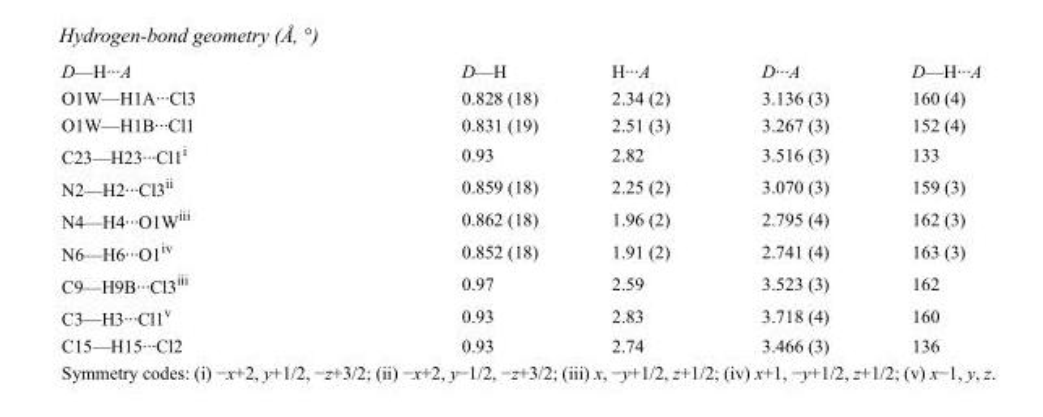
<table><tbody><tr><td>D—H···A</td><td>D—H</td><td>H···A</td><td>D···A</td><td>D—H···A</td></tr><tr><td>O1W—H1A···Cl3</td><td>0.828 (18)</td><td>2.34 (2)</td><td>3.136 (3)</td><td>160 (4)</td></tr><tr><td>O1W—H1B···Cl1</td><td>0.831 (19)</td><td>2.51 (3)</td><td>3.267 (3)</td><td>152 (4)</td></tr><tr><td>C23—H23···Cl1<sup>i</sup></td><td>0.93</td><td>2.82</td><td>3.516 (3)</td><td>133</td></tr><tr><td>N2—H2···Cl3<sup>ii</sup></td><td>0.859 (18)</td><td>2.25 (2)</td><td>3.070 (3)</td><td>159 (3)</td></tr><tr><td>N4—H4···O1W<sup>iii</sup></td><td>0.862 (18)</td><td>1.96 (2)</td><td>2.795 (4)</td><td>162 (3)</td></tr><tr><td>N6—H6···O1<sup>iv</sup></td><td>0.852 (18)</td><td>1.91 (2)</td><td>2.741 (4)</td><td>163 (3)</td></tr><tr><td>C9—H9B···Cl3<sup>iii</sup></td><td>0.97</td><td>2.59</td><td>3.523 (3)</td><td>162</td></tr><tr><td>C3—H3···Cl1<sup>v</sup></td><td>0.93</td><td>2.83</td><td>3.718 (4)</td><td>160</td></tr><tr><td>C15—H15···Cl2</td><td>0.93</td><td>2.74</td><td>3.466 (3)</td><td>136</td></tr></tbody></table>